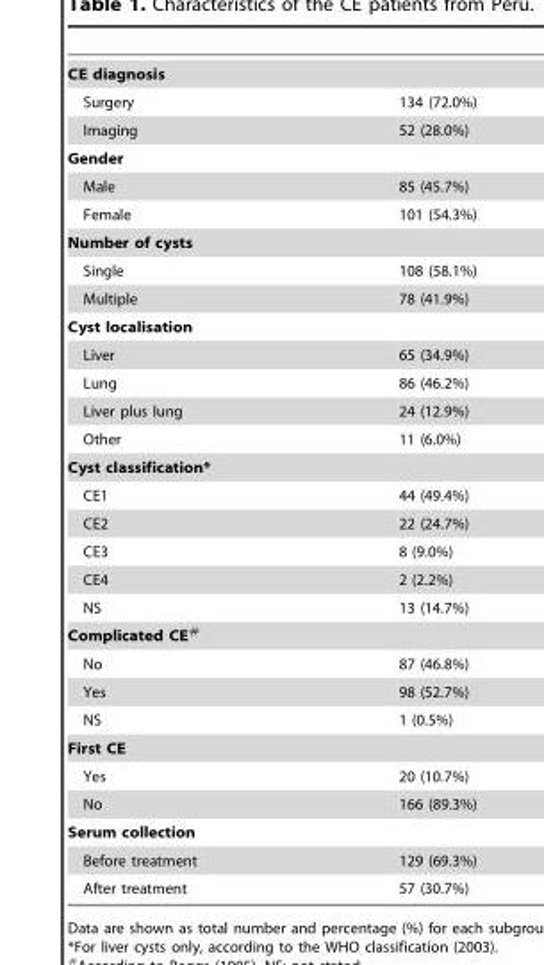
<table><tbody><tr><td colspan="2">CE diagnosis</td></tr><tr><td>Surgery</td><td>134 (72.0%)</td></tr><tr><td>Imaging</td><td>52 (28.0%)</td></tr><tr><td colspan="2">Gender</td></tr><tr><td>Male</td><td>85 (45.7%)</td></tr><tr><td>Female</td><td>101 (54.3%)</td></tr><tr><td colspan="2">Number of cysts</td></tr><tr><td>Single</td><td>108 (58.1%)</td></tr><tr><td>Multiple</td><td>78 (41.9%)</td></tr><tr><td colspan="2">Cyst localisation</td></tr><tr><td>Liver</td><td>65 (34.9%)</td></tr><tr><td>Lung</td><td>86 (46.2%)</td></tr><tr><td>Liver plus lung</td><td>24 (12.9%)</td></tr><tr><td>Other</td><td>11 (6.0%)</td></tr><tr><td colspan="2">Cyst classification*</td></tr><tr><td>CE1</td><td>44 (49.4%)</td></tr><tr><td>CE2</td><td>22 (24.7%)</td></tr><tr><td>CE3</td><td>8 (9.0%)</td></tr><tr><td>CE4</td><td>2 (2.2%)</td></tr><tr><td>NS</td><td>13 (14.7%)</td></tr><tr><td colspan="2">Complicated CE#</td></tr><tr><td>No</td><td>87 (46.8%)</td></tr><tr><td>Yes</td><td>98 (52.7%)</td></tr><tr><td>NS</td><td>1 (0.5%)</td></tr><tr><td colspan="2">First CE</td></tr><tr><td>Yes</td><td>20 (10.7%)</td></tr><tr><td>No</td><td>166 (89.3%)</td></tr><tr><td colspan="2">Serum collection</td></tr><tr><td>Before treatment</td><td>129 (69.3%)</td></tr><tr><td>After treatment</td><td>57 (30.7%)</td></tr></tbody></table>